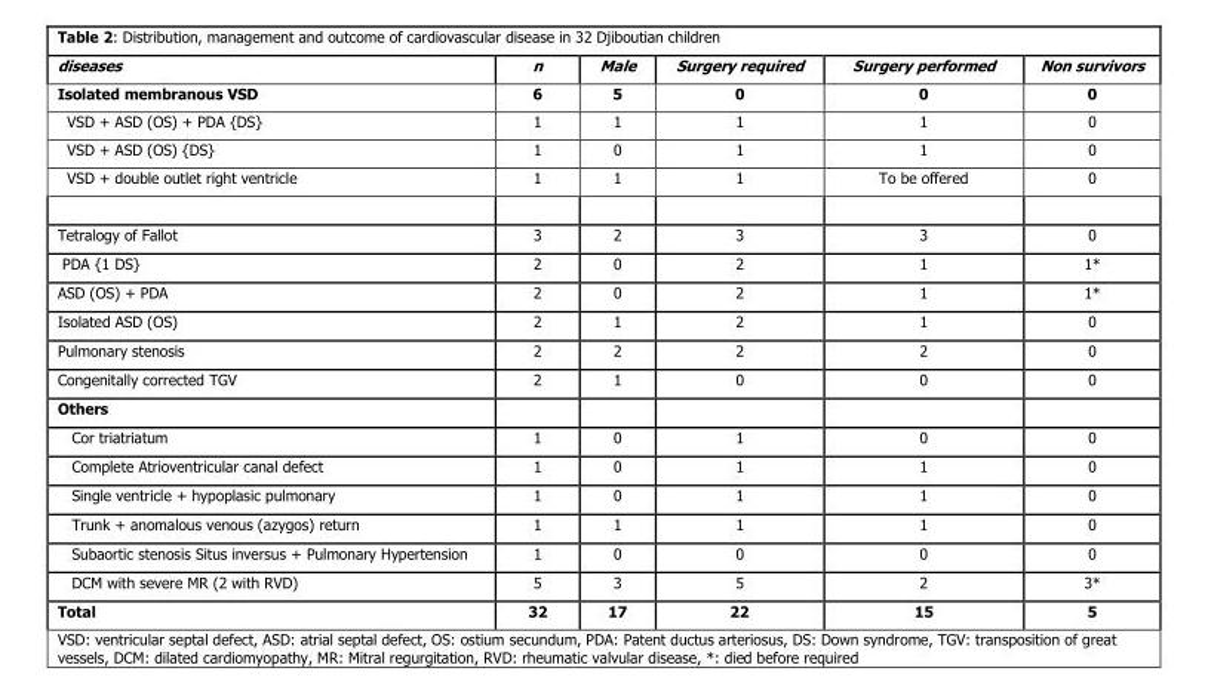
<table><thead><tr><td>diseases</td><td>n</td><td>Male</td><td>Surgery required</td><td>Surgery performed</td><td>Non survivors</td></tr></thead><tbody><tr><td>Isolated membranous VSD</td><td>6</td><td>5</td><td>0</td><td>0</td><td>0</td></tr><tr><td>VSD + ASD (OS) + PDA {DS}</td><td>1</td><td>1</td><td>1</td><td>1</td><td>0</td></tr><tr><td>VSD + ASD (OS) {DS}</td><td>1</td><td>0</td><td>1</td><td>1</td><td>0</td></tr><tr><td>VSD + double outlet right ventricle</td><td>1</td><td>1</td><td>1</td><td>To be offered</td><td>0</td></tr><tr><td>Tetralogy of Fallot</td><td>3</td><td>2</td><td>3</td><td>3</td><td>0</td></tr><tr><td>PDA {1 DS}</td><td>2</td><td>0</td><td>2</td><td>1</td><td>1*</td></tr><tr><td>ASD (OS) + PDA</td><td>2</td><td>0</td><td>2</td><td>1</td><td>1*</td></tr><tr><td>Isolated ASD (OS)</td><td>2</td><td>1</td><td>2</td><td>1</td><td>0</td></tr><tr><td>Pulmonary stenosis</td><td>2</td><td>2</td><td>2</td><td>2</td><td>0</td></tr><tr><td>Congenitally corrected TGV</td><td>2</td><td>1</td><td>0</td><td>0</td><td>0</td></tr><tr><td colspan="6">Others</td></tr><tr><td>Cor triatriatum</td><td>1</td><td>0</td><td>1</td><td>0</td><td>0</td></tr><tr><td>Complete Atrioventricular canal defect</td><td>1</td><td>0</td><td>1</td><td>1</td><td>0</td></tr><tr><td>Single ventricle + hypoplasic pulmonary</td><td>1</td><td>0</td><td>1</td><td>1</td><td>0</td></tr><tr><td>Trunk + anomalous venous (azygos) return</td><td>1</td><td>1</td><td>1</td><td>1</td><td>0</td></tr><tr><td>Subaortic stenosis Situs inversus + Pulmonary Hypertension</td><td>1</td><td>0</td><td>0</td><td>0</td><td>0</td></tr><tr><td>DCM with severe MR (2 with RVD)</td><td>5</td><td>3</td><td>5</td><td>2</td><td>3*</td></tr><tr><td>Total</td><td>32</td><td>17</td><td>22</td><td>15</td><td>5</td></tr></tbody></table>